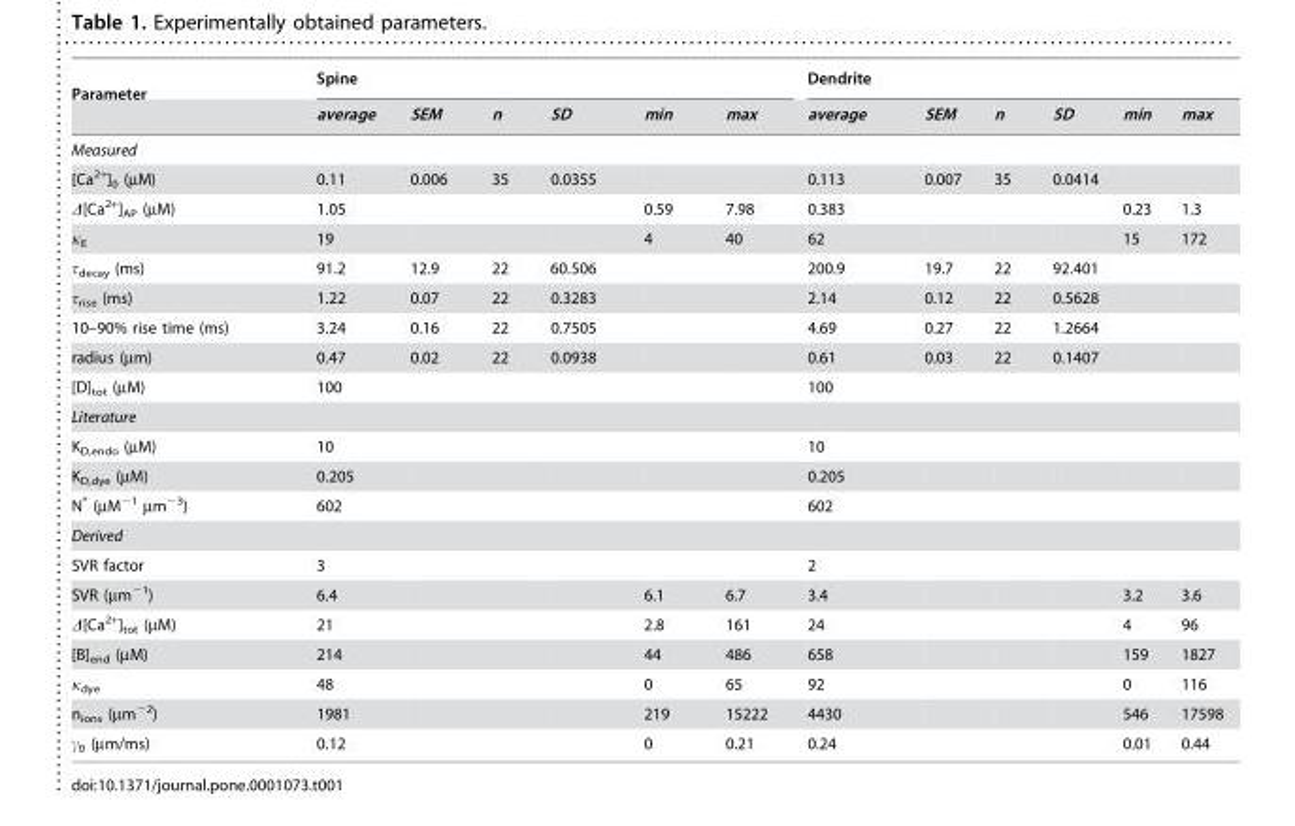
<table><thead><tr><td rowspan="2">Parameter</td><td colspan="6">Spine</td><td colspan="6">Dendrite</td></tr><tr><td>average</td><td>SEM</td><td>n</td><td>SD</td><td>min</td><td>max</td><td>average</td><td>SEM</td><td>n</td><td>SD</td><td>min</td><td>max</td></tr></thead><tbody><tr><td colspan="13">Measured</td></tr><tr><td>[Ca<sup>2+</sup>]<sub>0</sub> (µM)</td><td>0.11</td><td>0.006</td><td>35</td><td>0.0355</td><td></td><td></td><td>0.113</td><td>0.007</td><td>35</td><td>0.0414</td><td></td><td></td></tr><tr><td>Δ[Ca<sup>2+</sup>]<sub>AP</sub> (µM)</td><td>1.05</td><td></td><td></td><td></td><td>0.59</td><td>7.98</td><td>0.383</td><td></td><td></td><td></td><td>0.23</td><td>1.3</td></tr><tr><td>κ<sub>E</sub></td><td>19</td><td></td><td></td><td></td><td>4</td><td>40</td><td>62</td><td></td><td></td><td></td><td>15</td><td>172</td></tr><tr><td>τ<sub>decay</sub> (ms)</td><td>91.2</td><td>12.9</td><td>22</td><td>60.506</td><td></td><td></td><td>200.9</td><td>19.7</td><td>22</td><td>92.401</td><td></td><td></td></tr><tr><td>τ<sub>rise</sub> (ms)</td><td>1.22</td><td>0.07</td><td>22</td><td>0.3283</td><td></td><td></td><td>2.14</td><td>0.12</td><td>22</td><td>0.5628</td><td></td><td></td></tr><tr><td>10–90% rise time (ms)</td><td>3.24</td><td>0.16</td><td>22</td><td>0.7505</td><td></td><td></td><td>4.69</td><td>0.27</td><td>22</td><td>1.2664</td><td></td><td></td></tr><tr><td>radius (µm)</td><td>0.47</td><td>0.02</td><td>22</td><td>0.0938</td><td></td><td></td><td>0.61</td><td>0.03</td><td>22</td><td>0.1407</td><td></td><td></td></tr><tr><td>[D]<sub>tot</sub> (µM)</td><td>100</td><td></td><td></td><td></td><td></td><td></td><td>100</td><td></td><td></td><td></td><td></td><td></td></tr><tr><td colspan="13">Literature</td></tr><tr><td>K<sub>D,endo</sub> (µM)</td><td>10</td><td></td><td></td><td></td><td></td><td></td><td>10</td><td></td><td></td><td></td><td></td><td></td></tr><tr><td>K<sub>D,dye</sub> (µM)</td><td>0.205</td><td></td><td></td><td></td><td></td><td></td><td>0.205</td><td></td><td></td><td></td><td></td><td></td></tr><tr><td>N* (µM<sup>−1</sup> µm<sup>−3</sup>)</td><td>602</td><td></td><td></td><td></td><td></td><td></td><td>602</td><td></td><td></td><td></td><td></td><td></td></tr><tr><td colspan="13">Derived</td></tr><tr><td>SVR factor</td><td>3</td><td></td><td></td><td></td><td></td><td></td><td>2</td><td></td><td></td><td></td><td></td><td></td></tr><tr><td>SVR (µm<sup>−1</sup>)</td><td>6.4</td><td></td><td></td><td></td><td>6.1</td><td>6.7</td><td>3.4</td><td></td><td></td><td></td><td>3.2</td><td>3.6</td></tr><tr><td>Δ[Ca<sup>2+</sup>]<sub>tot</sub> (µM)</td><td>21</td><td></td><td></td><td></td><td>2.8</td><td>161</td><td>24</td><td></td><td></td><td></td><td>4</td><td>96</td></tr><tr><td>[B]<sub>end</sub> (µM)</td><td>214</td><td></td><td></td><td></td><td>44</td><td>486</td><td>658</td><td></td><td></td><td></td><td>159</td><td>1827</td></tr><tr><td>κ<sub>dye</sub></td><td>48</td><td></td><td></td><td></td><td>0</td><td>65</td><td>92</td><td></td><td></td><td></td><td>0</td><td>116</td></tr><tr><td>n<sub>ions</sub> (µm<sup>−2</sup>)</td><td>1981</td><td></td><td></td><td></td><td>219</td><td>15222</td><td>4430</td><td></td><td></td><td></td><td>546</td><td>17598</td></tr><tr><td>γ<sub>0</sub> (µm/ms)</td><td>0.12</td><td></td><td></td><td></td><td>0</td><td>0.21</td><td>0.24</td><td></td><td></td><td></td><td>0.01</td><td>0.44</td></tr></tbody></table>